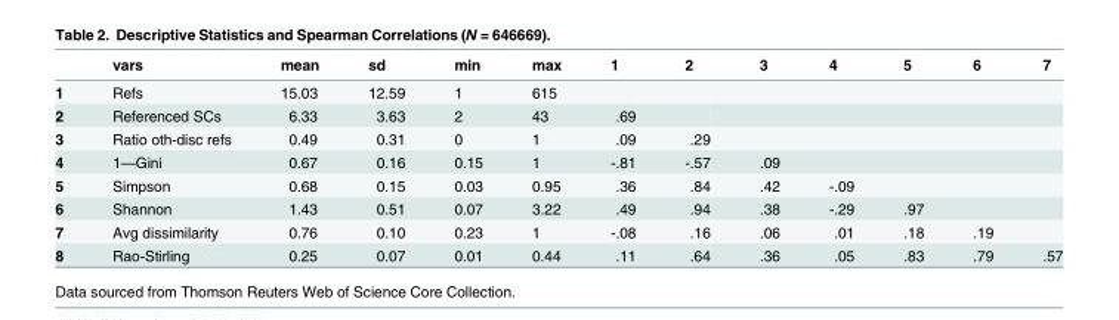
<table><thead><tr><td></td><td>vars</td><td>mean</td><td>sd</td><td>min</td><td>max</td><td>1</td><td>2</td><td>3</td><td>4</td><td>5</td><td>6</td><td>7</td></tr></thead><tbody><tr><td>1</td><td>Refs</td><td>15.03</td><td>12.59</td><td>1</td><td>615</td><td></td><td></td><td></td><td></td><td></td><td></td><td></td></tr><tr><td>2</td><td>Referenced SCs</td><td>6.33</td><td>3.63</td><td>2</td><td>43</td><td>.69</td><td></td><td></td><td></td><td></td><td></td><td></td></tr><tr><td>3</td><td>Ratio oth-disc refs</td><td>0.49</td><td>0.31</td><td>0</td><td>1</td><td>.09</td><td>.29</td><td></td><td></td><td></td><td></td><td></td></tr><tr><td>4</td><td>1—Gini</td><td>0.67</td><td>0.16</td><td>0.15</td><td>1</td><td>-.81</td><td>-.57</td><td>.09</td><td></td><td></td><td></td><td></td></tr><tr><td>5</td><td>Simpson</td><td>0.68</td><td>0.15</td><td>0.03</td><td>0.95</td><td>.36</td><td>.84</td><td>.42</td><td>-.09</td><td></td><td></td><td></td></tr><tr><td>6</td><td>Shannon</td><td>1.43</td><td>0.51</td><td>0.07</td><td>3.22</td><td>.49</td><td>.94</td><td>.38</td><td>-.29</td><td>.97</td><td></td><td></td></tr><tr><td>7</td><td>Avg dissimilarity</td><td>0.76</td><td>0.10</td><td>0.23</td><td>1</td><td>-.08</td><td>.16</td><td>.06</td><td>.01</td><td>.18</td><td>.19</td><td></td></tr><tr><td>8</td><td>Rao-Stirling</td><td>0.25</td><td>0.07</td><td>0.01</td><td>0.44</td><td>.11</td><td>.64</td><td>.36</td><td>.05</td><td>.83</td><td>.79</td><td>.57</td></tr></tbody></table>